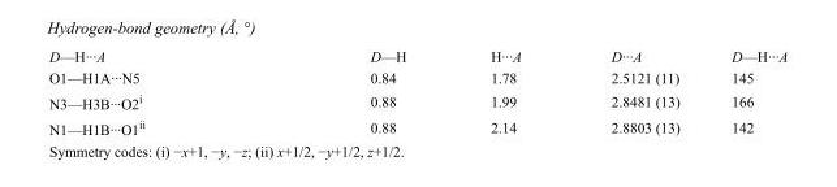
<table><tbody><tr><td>D—H···A</td><td>D—H</td><td>H···A</td><td>D···A</td><td>D—H···A</td></tr><tr><td>O1—H1A···N5</td><td>0.84</td><td>1.78</td><td>2.5121 (11)</td><td>145</td></tr><tr><td>N3—H3B···O2<sup>i</sup></td><td>0.88</td><td>1.99</td><td>2.8481 (13)</td><td>166</td></tr><tr><td>N1—H1B···O1<sup>ii</sup></td><td>0.88</td><td>2.14</td><td>2.8803 (13)</td><td>142</td></tr></tbody></table>